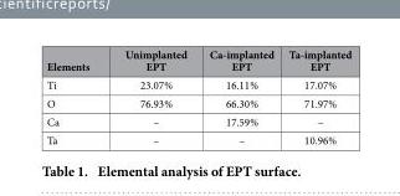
<table><thead><tr><td>Elements</td><td>Unimplanted EPT</td><td>Ca-implanted EPT</td><td>Ta-implanted EPT</td></tr></thead><tbody><tr><td>Ti</td><td>23.07%</td><td>16.11%</td><td>17.07%</td></tr><tr><td>O</td><td>76.93%</td><td>66.30%</td><td>71.97%</td></tr><tr><td>Ca</td><td>–</td><td>17.59%</td><td>–</td></tr><tr><td>Ta</td><td>–</td><td>–</td><td>10.96%</td></tr></tbody></table>